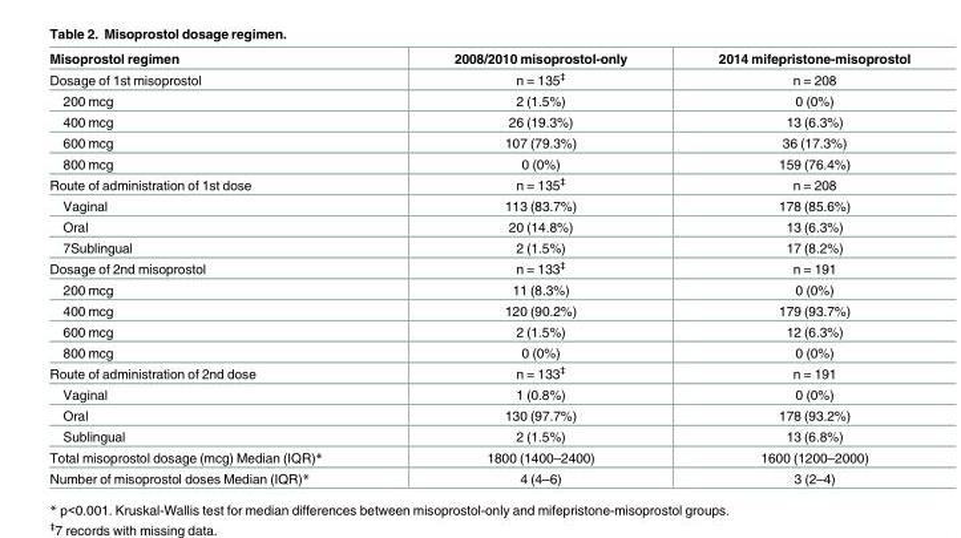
<table><thead><tr><td>Misoprostol regimen</td><td>2008/2010 misoprostol-only</td><td>2014 mifepristone-misoprostol</td></tr></thead><tbody><tr><td>Dosage of 1st misoprostol</td><td>n = 135<sup>‡</sup></td><td>n = 208</td></tr><tr><td>200 mcg</td><td>2 (1.5%)</td><td>0 (0%)</td></tr><tr><td>400 mcg</td><td>26 (19.3%)</td><td>13 (6.3%)</td></tr><tr><td>600 mcg</td><td>107 (79.3%)</td><td>36 (17.3%)</td></tr><tr><td>800 mcg</td><td>0 (0%)</td><td>159 (76.4%)</td></tr><tr><td>Route of administration of 1st dose</td><td>n = 135<sup>‡</sup></td><td>n = 208</td></tr><tr><td>Vaginal</td><td>113 (83.7%)</td><td>178 (85.6%)</td></tr><tr><td>Oral</td><td>20 (14.8%)</td><td>13 (6.3%)</td></tr><tr><td>7Sublingual</td><td>2 (1.5%)</td><td>17 (8.2%)</td></tr><tr><td>Dosage of 2nd misoprostol</td><td>n = 133<sup>‡</sup></td><td>n = 191</td></tr><tr><td>200 mcg</td><td>11 (8.3%)</td><td>0 (0%)</td></tr><tr><td>400 mcg</td><td>120 (90.2%)</td><td>179 (93.7%)</td></tr><tr><td>600 mcg</td><td>2 (1.5%)</td><td>12 (6.3%)</td></tr><tr><td>800 mcg</td><td>0 (0%)</td><td>0 (0%)</td></tr><tr><td>Route of administration of 2nd dose</td><td>n = 133<sup>‡</sup></td><td>n = 191</td></tr><tr><td>Vaginal</td><td>1 (0.8%)</td><td>0 (0%)</td></tr><tr><td>Oral</td><td>130 (97.7%)</td><td>178 (93.2%)</td></tr><tr><td>Sublingual</td><td>2 (1.5%)</td><td>13 (6.8%)</td></tr><tr><td>Total misoprostol dosage (mcg) Median (IQR)*</td><td>1800 (1400–2400)</td><td>1600 (1200–2000)</td></tr><tr><td>Number of misoprostol doses Median (IQR)*</td><td>4 (4–6)</td><td>3 (2–4)</td></tr></tbody></table>